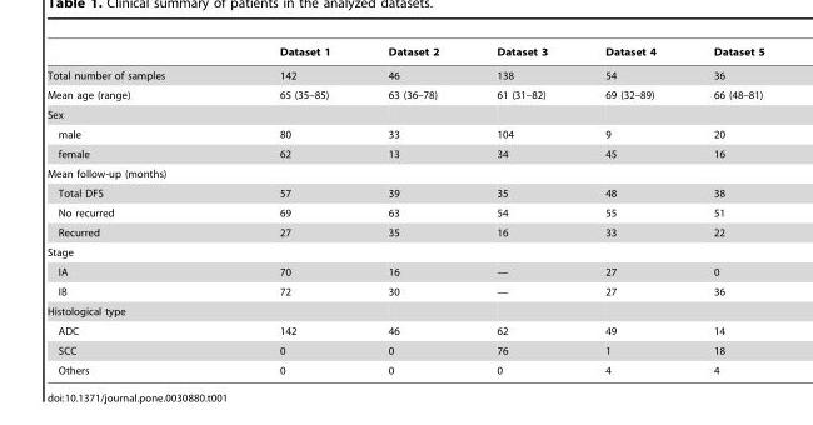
<table><thead><tr><td></td><td>Dataset 1</td><td>Dataset 2</td><td>Dataset 3</td><td>Dataset 4</td><td>Dataset 5</td></tr></thead><tbody><tr><td>Total number of samples</td><td>142</td><td>46</td><td>138</td><td>54</td><td>36</td></tr><tr><td>Mean age (range)</td><td>65 (35–85)</td><td>63 (36–78)</td><td>61 (31–82)</td><td>69 (32–89)</td><td>66 (48–81)</td></tr><tr><td colspan="6">Sex</td></tr><tr><td>male</td><td>80</td><td>33</td><td>104</td><td>9</td><td>20</td></tr><tr><td>female</td><td>62</td><td>13</td><td>34</td><td>45</td><td>16</td></tr><tr><td colspan="6">Mean follow-up (months)</td></tr><tr><td>Total DFS</td><td>57</td><td>39</td><td>35</td><td>48</td><td>38</td></tr><tr><td>No recurred</td><td>69</td><td>63</td><td>54</td><td>55</td><td>51</td></tr><tr><td>Recurred</td><td>27</td><td>35</td><td>16</td><td>33</td><td>22</td></tr><tr><td colspan="6">Stage</td></tr><tr><td>IA</td><td>70</td><td>16</td><td>—</td><td>27</td><td>0</td></tr><tr><td>IB</td><td>72</td><td>30</td><td>—</td><td>27</td><td>36</td></tr><tr><td colspan="6">Histological type</td></tr><tr><td>ADC</td><td>142</td><td>46</td><td>62</td><td>49</td><td>14</td></tr><tr><td>SCC</td><td>0</td><td>0</td><td>76</td><td>1</td><td>18</td></tr><tr><td>Others</td><td>0</td><td>0</td><td>0</td><td>4</td><td>4</td></tr></tbody></table>